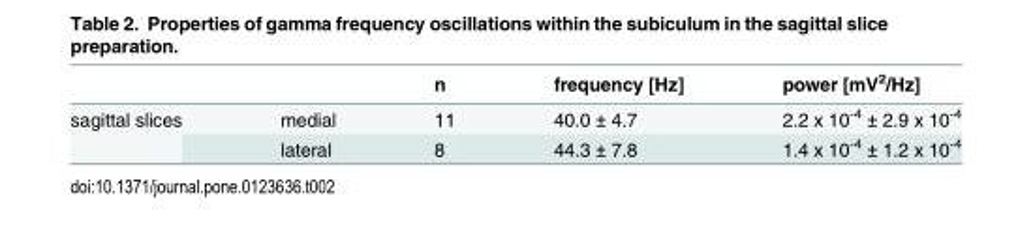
<table><thead><tr><td></td><td></td><td>n</td><td>frequency [Hz]</td><td>power [mV<sup>2</sup>/Hz]</td></tr></thead><tbody><tr><td rowspan="2">sagittal slices</td><td>medial</td><td>11</td><td>40.0 ± 4.7</td><td>2.2 x 10<sup>-4</sup> ± 2.9 x 10<sup>-4</sup></td></tr><tr><td>lateral</td><td>8</td><td>44.3 ± 7.8</td><td>1.4 x 10<sup>-4</sup> ± 1.2 x 10<sup>-4</sup></td></tr></tbody></table>